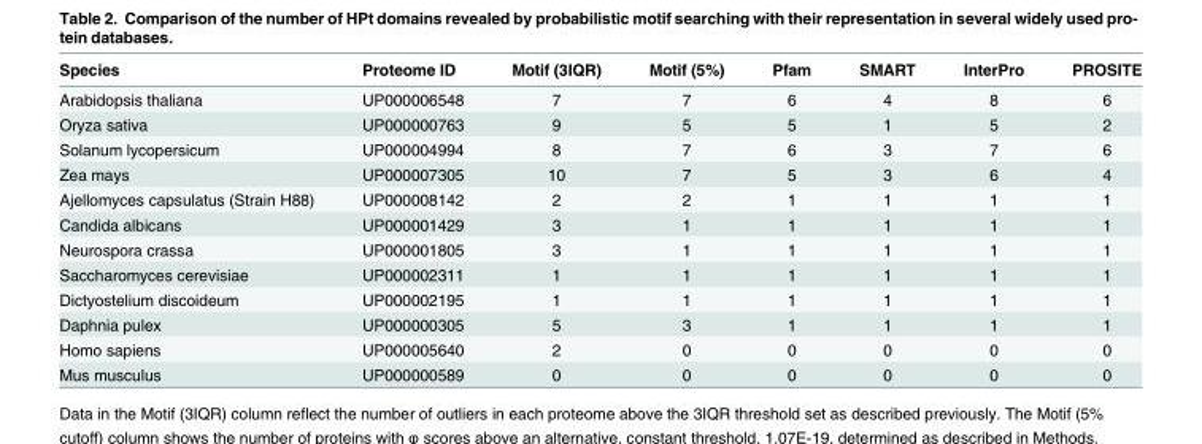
<table><thead><tr><td>Species</td><td>Proteome ID</td><td>Motif (3IQR)</td><td>Motif (5%)</td><td>Pfam</td><td>SMART</td><td>InterPro</td><td>PROSITE</td></tr></thead><tbody><tr><td>Arabidopsis thaliana</td><td>UP000006548</td><td>7</td><td>7</td><td>6</td><td>4</td><td>8</td><td>6</td></tr><tr><td>Oryza sativa</td><td>UP000000763</td><td>9</td><td>5</td><td>5</td><td>1</td><td>5</td><td>2</td></tr><tr><td>Solanum lycopersicum</td><td>UP000004994</td><td>8</td><td>7</td><td>6</td><td>3</td><td>7</td><td>6</td></tr><tr><td>Zea mays</td><td>UP000007305</td><td>10</td><td>7</td><td>5</td><td>3</td><td>6</td><td>4</td></tr><tr><td>Ajellomyces capsulatus (Strain H88)</td><td>UP000008142</td><td>2</td><td>2</td><td>1</td><td>1</td><td>1</td><td>1</td></tr><tr><td>Candida albicans</td><td>UP000001429</td><td>3</td><td>1</td><td>1</td><td>1</td><td>1</td><td>1</td></tr><tr><td>Neurospora crassa</td><td>UP000001805</td><td>3</td><td>1</td><td>1</td><td>1</td><td>1</td><td>1</td></tr><tr><td>Saccharomyces cerevisiae</td><td>UP000002311</td><td>1</td><td>1</td><td>1</td><td>1</td><td>1</td><td>1</td></tr><tr><td>Dictyostelium discoideum</td><td>UP000002195</td><td>1</td><td>1</td><td>1</td><td>1</td><td>1</td><td>1</td></tr><tr><td>Daphnia pulex</td><td>UP000000305</td><td>5</td><td>3</td><td>1</td><td>1</td><td>1</td><td>1</td></tr><tr><td>Homo sapiens</td><td>UP000005640</td><td>2</td><td>0</td><td>0</td><td>0</td><td>0</td><td>0</td></tr><tr><td>Mus musculus</td><td>UP000000589</td><td>0</td><td>0</td><td>0</td><td>0</td><td>0</td><td>0</td></tr></tbody></table>